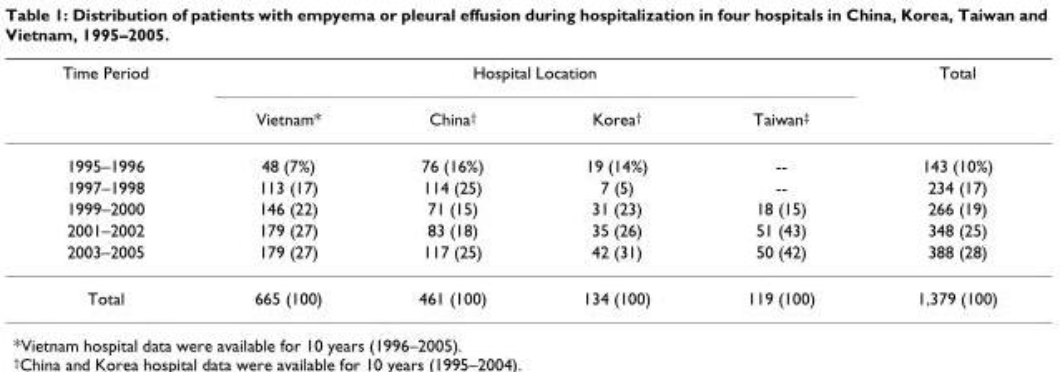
<table><thead><tr><td rowspan="2">Time Period</td><td colspan="4">Hospital Location</td><td rowspan="2">Total</td></tr><tr><td>Vietnam*</td><td>China<sup>†</sup></td><td>Korea<sup>†</sup></td><td>Taiwan<sup>‡</sup></td></tr></thead><tbody><tr><td>1995–1996</td><td>48 (7%)</td><td>76 (16%)</td><td>19 (14%)</td><td>--</td><td>143 (10%)</td></tr><tr><td>1997–1998</td><td>113 (17)</td><td>114 (25)</td><td>7 (5)</td><td>--</td><td>234 (17)</td></tr><tr><td>1999–2000</td><td>146 (22)</td><td>71 (15)</td><td>31 (23)</td><td>18 (15)</td><td>266 (19)</td></tr><tr><td>2001–2002</td><td>179 (27)</td><td>83 (18)</td><td>35 (26)</td><td>51 (43)</td><td>348 (25)</td></tr><tr><td>2003–2005</td><td>179 (27)</td><td>117 (25)</td><td>42 (31)</td><td>50 (42)</td><td>388 (28)</td></tr><tr><td>Total</td><td>665 (100)</td><td>461 (100)</td><td>134 (100)</td><td>119 (100)</td><td>1,379 (100)</td></tr></tbody></table>